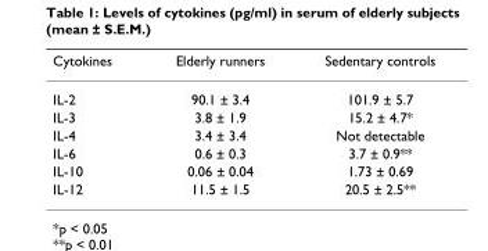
<table><thead><tr><td>Cytokines</td><td>Elderly runners</td><td>Sedentary controls</td></tr></thead><tbody><tr><td>IL-2</td><td>90.1 ± 3.4</td><td>101.9 ± 5.7</td></tr><tr><td>IL-3</td><td>3.8 ± 1.9</td><td>15.2 ± 4.7*</td></tr><tr><td>IL-4</td><td>3.4 ± 3.4</td><td>Not detectable</td></tr><tr><td>IL-6</td><td>0.6 ± 0.3</td><td>3.7 ± 0.9**</td></tr><tr><td>IL-10</td><td>0.06 ± 0.04</td><td>1.73 ± 0.69</td></tr><tr><td>IL-12</td><td>11.5 ± 1.5</td><td>20.5 ± 2.5**</td></tr></tbody></table>